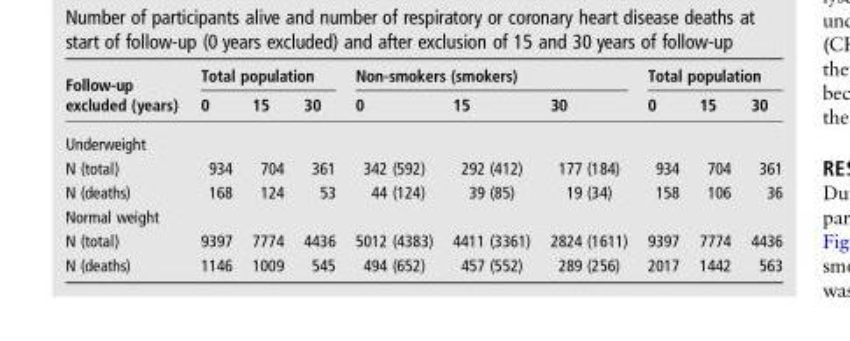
<table><thead><tr><td rowspan="2">Follow-up excluded (years)</td><td colspan="3">Total population</td><td colspan="3">Non-smokers (smokers)</td><td colspan="3">Total population</td></tr><tr><td>0</td><td>15</td><td>30</td><td>0</td><td>15</td><td>30</td><td>0</td><td>15</td><td>30</td></tr></thead><tbody><tr><td colspan="10">Underweight</td></tr><tr><td>N (total)</td><td>934</td><td>704</td><td>361</td><td>342 (592)</td><td>292 (412)</td><td>177 (184)</td><td>934</td><td>704</td><td>361</td></tr><tr><td>N (deaths)</td><td>168</td><td>124</td><td>53</td><td>44 (124)</td><td>39 (85)</td><td>19 (34)</td><td>158</td><td>106</td><td>36</td></tr><tr><td colspan="10">Normal weight</td></tr><tr><td>N (total)</td><td>9397</td><td>7774</td><td>4436</td><td>5012 (4383)</td><td>4411 (3361)</td><td>2824 (1611)</td><td>9397</td><td>7774</td><td>4436</td></tr><tr><td>N (deaths)</td><td>1146</td><td>1009</td><td>545</td><td>494 (652)</td><td>457 (552)</td><td>289 (256)</td><td>2017</td><td>1442</td><td>563</td></tr></tbody></table>